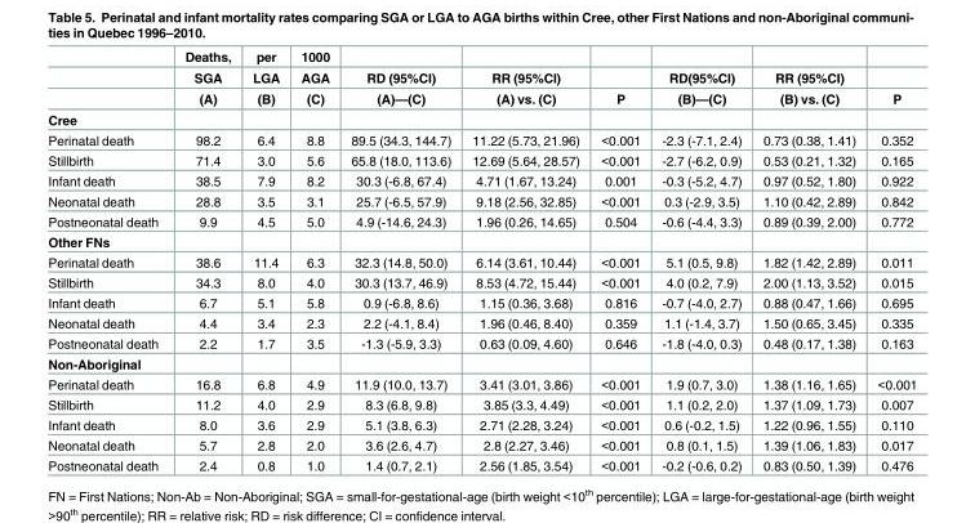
<table><thead><tr><td rowspan="3"></td><td rowspan="3">Deaths, SGA (A)</td><td rowspan="3">per LGA (B)</td><td rowspan="3">1000 AGA (C)</td><td rowspan="3">RD (95%CI) (A)—(C)</td><td rowspan="3">RR (95%CI) (A) vs. (C)</td><td rowspan="3">P</td><td rowspan="3">RD(95%CI) (B)—(C)</td><td rowspan="3">RR (95%CI) (B) vs. (C)</td><td rowspan="3">P</td></tr><tr></tr><tr></tr></thead><tbody><tr><td colspan="10">Cree</td></tr><tr><td>Perinatal death</td><td>98.2</td><td>6.4</td><td>8.8</td><td>89.5 (34.3, 144.7)</td><td>11.22 (5.73, 21.96)</td><td>&lt;0.001</td><td>-2.3 (-7.1, 2.4)</td><td>0.73 (0.38, 1.41)</td><td>0.352</td></tr><tr><td>Stillbirth</td><td>71.4</td><td>3.0</td><td>5.6</td><td>65.8 (18.0, 113.6)</td><td>12.69 (5.64, 28.57)</td><td>&lt;0.001</td><td>-2.7 (-6.2, 0.9)</td><td>0.53 (0.21, 1.32)</td><td>0.165</td></tr><tr><td>Infant death</td><td>38.5</td><td>7.9</td><td>8.2</td><td>30.3 (-6.8, 67.4)</td><td>4.71 (1.67, 13.24)</td><td>0.001</td><td>-0.3 (-5.2, 4.7)</td><td>0.97 (0.52, 1.80)</td><td>0.922</td></tr><tr><td>Neonatal death</td><td>28.8</td><td>3.5</td><td>3.1</td><td>25.7 (-6.5, 57.9)</td><td>9.18 (2.56, 32.85)</td><td>&lt;0.001</td><td>0.3 (-2.9, 3.5)</td><td>1.10 (0.42, 2.89)</td><td>0.842</td></tr><tr><td>Postneonatal death</td><td>9.9</td><td>4.5</td><td>5.0</td><td>4.9 (-14.6, 24.3)</td><td>1.96 (0.26, 14.65)</td><td>0.504</td><td>-0.6 (-4.4, 3.3)</td><td>0.89 (0.39, 2.00)</td><td>0.772</td></tr><tr><td colspan="10">Other FNs</td></tr><tr><td>Perinatal death</td><td>38.6</td><td>11.4</td><td>6.3</td><td>32.3 (14.8, 50.0)</td><td>6.14 (3.61, 10.44)</td><td>&lt;0.001</td><td>5.1 (0.5, 9.8)</td><td>1.82 (1.42, 2.89)</td><td>0.011</td></tr><tr><td>Stillbirth</td><td>34.3</td><td>8.0</td><td>4.0</td><td>30.3 (13.7, 46.9)</td><td>8.53 (4.72, 15.44)</td><td>&lt;0.001</td><td>4.0 (0.2, 7.9)</td><td>2.00 (1.13, 3.52)</td><td>0.015</td></tr><tr><td>Infant death</td><td>6.7</td><td>5.1</td><td>5.8</td><td>0.9 (-6.8, 8.6)</td><td>1.15 (0.36, 3.68)</td><td>0.816</td><td>-0.7 (-4.0, 2.7)</td><td>0.88 (0.47, 1.66)</td><td>0.695</td></tr><tr><td>Neonatal death</td><td>4.4</td><td>3.4</td><td>2.3</td><td>2.2 (-4.1, 8.4)</td><td>1.96 (0.46, 8.40)</td><td>0.359</td><td>1.1 (-1.4, 3.7)</td><td>1.50 (0.65, 3.45)</td><td>0.335</td></tr><tr><td>Postneonatal death</td><td>2.2</td><td>1.7</td><td>3.5</td><td>-1.3 (-5.9, 3.3)</td><td>0.63 (0.09, 4.60)</td><td>0.646</td><td>-1.8 (-4.0, 0.3)</td><td>0.48 (0.17, 1.38)</td><td>0.163</td></tr><tr><td colspan="10">Non-Aboriginal</td></tr><tr><td>Perinatal death</td><td>16.8</td><td>6.8</td><td>4.9</td><td>11.9 (10.0, 13.7)</td><td>3.41 (3.01, 3.86)</td><td>&lt;0.001</td><td>1.9 (0.7, 3.0)</td><td>1.38 (1.16, 1.65)</td><td>&lt;0.001</td></tr><tr><td>Stillbirth</td><td>11.2</td><td>4.0</td><td>2.9</td><td>8.3 (6.8, 9.8)</td><td>3.85 (3.3, 4.49)</td><td>&lt;0.001</td><td>1.1 (0.2, 2.0)</td><td>1.37 (1.09, 1.73)</td><td>0.007</td></tr><tr><td>Infant death</td><td>8.0</td><td>3.6</td><td>2.9</td><td>5.1 (3.8, 6.3)</td><td>2.71 (2.28, 3.24)</td><td>&lt;0.001</td><td>0.6 (-0.2, 1.5)</td><td>1.22 (0.96, 1.55)</td><td>0.110</td></tr><tr><td>Neonatal death</td><td>5.7</td><td>2.8</td><td>2.0</td><td>3.6 (2.6, 4.7)</td><td>2.8 (2.27, 3.46)</td><td>&lt;0.001</td><td>0.8 (0.1, 1.5)</td><td>1.39 (1.06, 1.83)</td><td>0.017</td></tr><tr><td>Postneonatal death</td><td>2.4</td><td>0.8</td><td>1.0</td><td>1.4 (0.7, 2.1)</td><td>2.56 (1.85, 3.54)</td><td>&lt;0.001</td><td>-0.2 (-0.6, 0.2)</td><td>0.83 (0.50, 1.39)</td><td>0.476</td></tr></tbody></table>